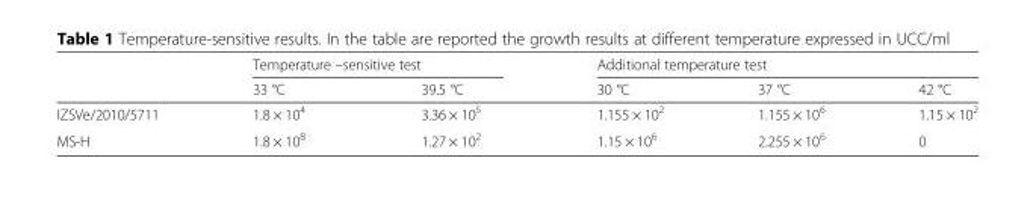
<table><thead><tr><td rowspan="2"></td><td colspan="2">Temperature –sensitive test</td><td colspan="3">Additional temperature test</td></tr><tr><td>33 °C</td><td>39.5 °C</td><td>30 °C</td><td>37 °C</td><td>42 °C</td></tr></thead><tbody><tr><td>IZSVe/2010/5711</td><td>1.8 × 10<sup>4</sup></td><td>3.36 × 10<sup>5</sup></td><td>1.155 × 10<sup>2</sup></td><td>1.155 × 10<sup>6</sup></td><td>1.15 × 10<sup>2</sup></td></tr><tr><td>MS-H</td><td>1.8 × 10<sup>8</sup></td><td>1.27 × 10<sup>2</sup></td><td>1.15 × 10<sup>6</sup></td><td>2.255 × 10<sup>6</sup></td><td>0</td></tr></tbody></table>